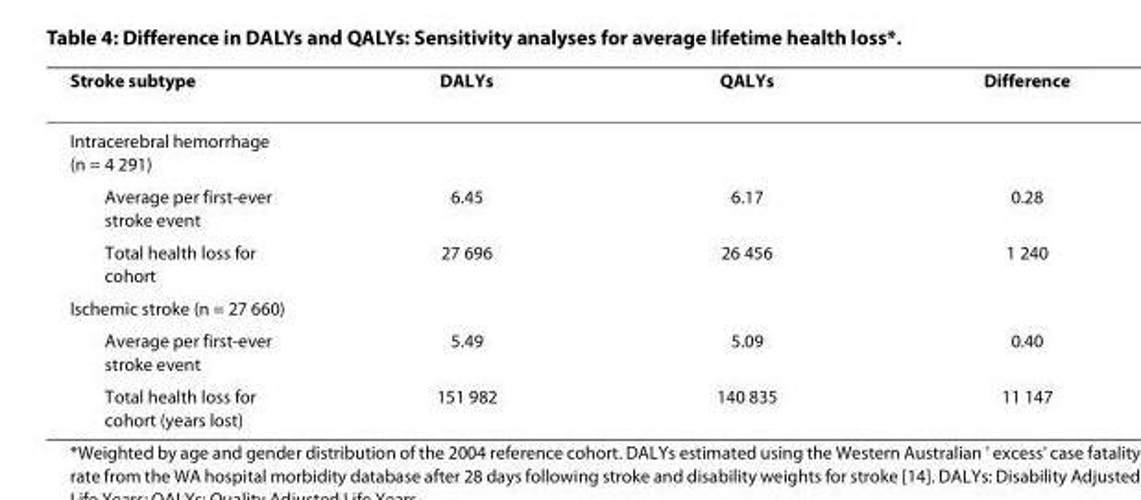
<table><thead><tr><td>Stroke subtype</td><td>DALYs</td><td>QALYs</td><td>Difference</td></tr></thead><tbody><tr><td colspan="4">Intracerebral hemorrhage (n = 4 291)</td></tr><tr><td>Average per first-ever stroke event</td><td>6.45</td><td>6.17</td><td>0.28</td></tr><tr><td>Total health loss for cohort</td><td>27 696</td><td>26 456</td><td>1 240</td></tr><tr><td colspan="4">Ischemic stroke (n = 27 660)</td></tr><tr><td>Average per first-ever stroke event</td><td>5.49</td><td>5.09</td><td>0.40</td></tr><tr><td>Total health loss for cohort (years lost)</td><td>151 982</td><td>140 835</td><td>11 147</td></tr></tbody></table>